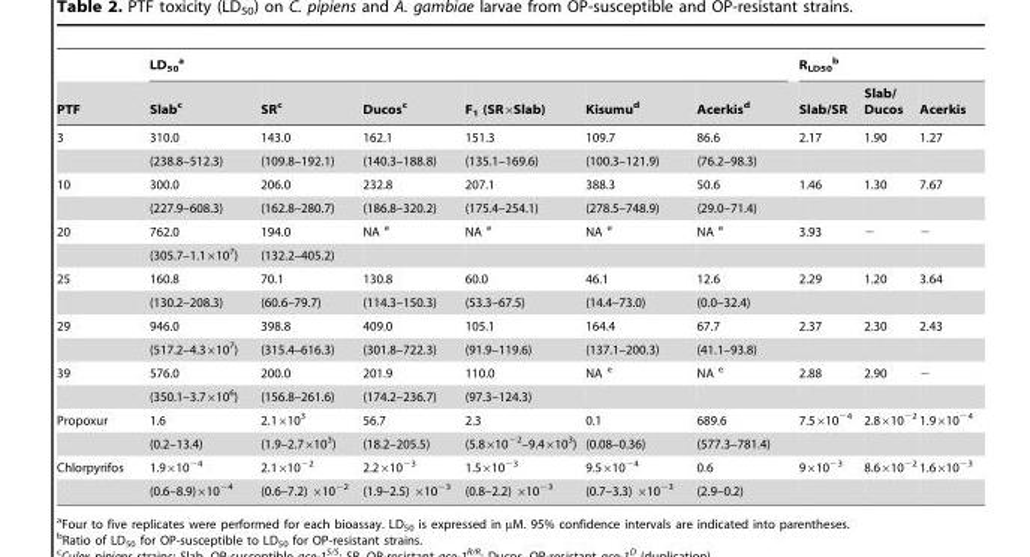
<table><thead><tr><td rowspan="2">PTF</td><td colspan="6">LD<sub>50</sub> a</td><td colspan="3">R<sub>LD50</sub> b</td></tr><tr><td>Slab<sup>c</sup></td><td>SR<sup>c</sup></td><td>Ducos<sup>c</sup></td><td>F<sub>1</sub> (SR×Slab)</td><td>Kisumu<sup>d</sup></td><td>Acerkis<sup>d</sup></td><td>Slab/SR</td><td>Slab/ Ducos</td><td>Acerkis</td></tr></thead><tbody><tr><td rowspan="2">3</td><td>310.0</td><td>143.0</td><td>162.1</td><td>151.3</td><td>109.7</td><td>86.6</td><td>2.17</td><td>1.90</td><td>1.27</td></tr><tr><td>(238.8–512.3)</td><td>(109.8–192.1)</td><td>(140.3–188.8)</td><td>(135.1–169.6)</td><td>(100.3–121.9)</td><td>(76.2–98.3)</td><td></td><td></td><td></td></tr><tr><td rowspan="2">10</td><td>300.0</td><td>206.0</td><td>232.8</td><td>207.1</td><td>388.3</td><td>50.6</td><td>1.46</td><td>1.30</td><td>7.67</td></tr><tr><td>(227.9–608.3)</td><td>(162.8–280.7)</td><td>(186.8–320.2)</td><td>(175.4–254.1)</td><td>(278.5–748.9)</td><td>(29.0–71.4)</td><td></td><td></td><td></td></tr><tr><td rowspan="2">20</td><td>762.0</td><td>194.0</td><td>NA e</td><td>NA e</td><td>NA e</td><td>NA e</td><td>3.93</td><td>−</td><td>−</td></tr><tr><td>(305.7–1.1×10<sup>7</sup>)</td><td>(132.2–405.2)</td><td></td><td></td><td></td><td></td><td></td><td></td><td></td></tr><tr><td rowspan="2">25</td><td>160.8</td><td>70.1</td><td>130.8</td><td>60.0</td><td>46.1</td><td>12.6</td><td>2.29</td><td>1.20</td><td>3.64</td></tr><tr><td>(130.2–208.3)</td><td>(60.6–79.7)</td><td>(114.3–150.3)</td><td>(53.3–67.5)</td><td>(14.4–73.0)</td><td>(0.0–32.4)</td><td></td><td></td><td></td></tr><tr><td rowspan="2">29</td><td>946.0</td><td>398.8</td><td>409.0</td><td>105.1</td><td>164.4</td><td>67.7</td><td>2.37</td><td>2.30</td><td>2.43</td></tr><tr><td>(517.2–4.3×10<sup>7</sup>)</td><td>(315.4–616.3)</td><td>(301.8–722.3)</td><td>(91.9–119.6)</td><td>(137.1–200.3)</td><td>(41.1–93.8)</td><td></td><td></td><td></td></tr><tr><td rowspan="2">39</td><td>576.0</td><td>200.0</td><td>201.9</td><td>110.0</td><td>NA e</td><td>NA e</td><td>2.88</td><td>2.90</td><td>−</td></tr><tr><td>(350.1–3.7×10<sup>6</sup>)</td><td>(156.8–261.6)</td><td>(174.2–236.7)</td><td>(97.3–124.3)</td><td></td><td></td><td></td><td></td><td></td></tr><tr><td rowspan="2">Propoxur</td><td>1.6</td><td>2.1×10<sup>3</sup></td><td>56.7</td><td>2.3</td><td>0.1</td><td>689.6</td><td>7.5×10<sup>−4</sup></td><td>2.8×10<sup>−2</sup></td><td>1.9×10<sup>−4</sup></td></tr><tr><td>(0.2–13.4)</td><td>(1.9–2.7×10<sup>3</sup>)</td><td>(18.2–205.5)</td><td>(5.8×10<sup>−2</sup>–9.4×10<sup>3</sup>)</td><td>(0.08–0.36)</td><td>(577.3–781.4)</td><td></td><td></td><td></td></tr><tr><td rowspan="2">Chlorpyrifos</td><td>1.9×10<sup>−4</sup></td><td>2.1×10<sup>−2</sup></td><td>2.2×10<sup>−3</sup></td><td>1.5×10<sup>−3</sup></td><td>9.5×10<sup>−4</sup></td><td>0.6</td><td>9×10<sup>−3</sup></td><td>8.6×10<sup>−2</sup></td><td>1.6×10<sup>−3</sup></td></tr><tr><td>(0.6–8.9)×10<sup>−4</sup></td><td>(0.6–7.2) ×10<sup>−2</sup></td><td>(1.9–2.5) ×10<sup>−3</sup></td><td>(0.8–2.2) ×10<sup>−3</sup></td><td>(0.7–3.3) ×10<sup>−3</sup></td><td>(2.9–0.2)</td><td></td><td></td><td></td></tr></tbody></table>